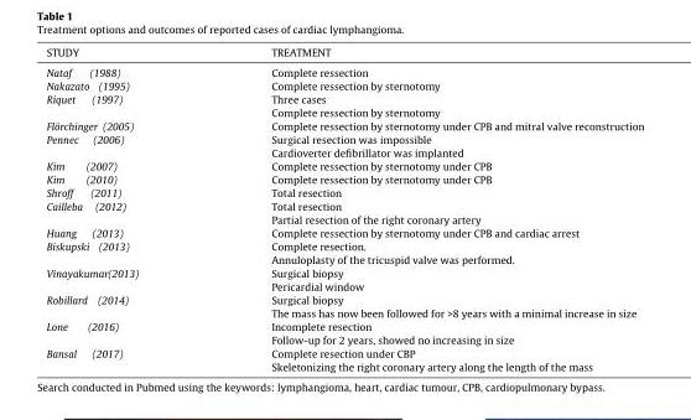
<table><thead><tr><td>STUDY</td><td>TREATMENT</td></tr></thead><tbody><tr><td>Nataf (1988)</td><td>Complete ressection</td></tr><tr><td>Nakazato (1995)</td><td>Complete ressection by sternotomy</td></tr><tr><td>Riquet (1997)</td><td>Three cases Complete ressection by sternotomy</td></tr><tr><td>Fl¨orchinger (2005)</td><td>Complete ressection by sternotomy under CPB and mitral valve reconstruction</td></tr><tr><td>Pennec (2006)</td><td>Surgical resection was impossible Cardioverter defibrillator was implanted</td></tr><tr><td>Kim (2007)</td><td>Complete ressection by sternotomy under CPB</td></tr><tr><td>Kim (2010)</td><td>Complete ressection by sternotomy under CPB</td></tr><tr><td>Shroff (2011)</td><td>Total resection</td></tr><tr><td>Cailleba (2012)</td><td>Total resection Partial resection of the right coronary artery</td></tr><tr><td>Huang (2013)</td><td>Complete ressection by sternotomy under CPB and cardiac arrest</td></tr><tr><td>Biskupski (2013)</td><td>Complete resection. Annuloplasty of the tricuspid valve was performed.</td></tr><tr><td>Vinayakumar(2013)</td><td>Surgical biopsy Pericardial window</td></tr><tr><td>Robillard (2014)</td><td>Surgical biopsy The mass has now been followed for &gt;8 years with a minimal increase in size</td></tr><tr><td>Lone (2016)</td><td>Incomplete resection Follow-up for 2 years, showed no increasing in size</td></tr><tr><td>Bansal (2017)</td><td>Complete resection under CBP Skeletonizing the right coronary artery along the length of the mass</td></tr></tbody></table>